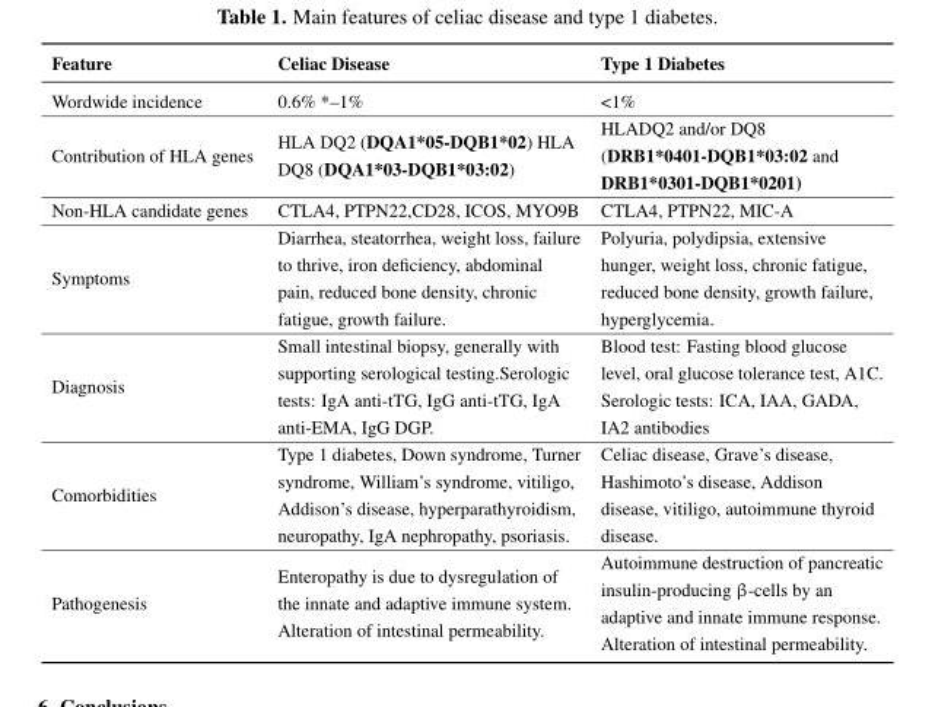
<table><thead><tr><td>Feature</td><td>Celiac Disease</td><td>Type 1 Diabetes</td></tr></thead><tbody><tr><td>Wordwide incidence</td><td>0.6% *–1%</td><td>&lt;1%</td></tr><tr><td>Contribution of HLA genes</td><td>HLA DQ2 (DQA1*05-DQB1*02) HLA DQ8 (DQA1*03-DQB1*03:02)</td><td>HLADQ2 and/or DQ8 (DRB1*0401-DQB1*03:02 and DRB1*0301-DQB1*0201)</td></tr><tr><td>Non-HLA candidate genes</td><td>CTLA4, PTPN22,CD28, ICOS, MYO9B</td><td>CTLA4, PTPN22, MIC-A</td></tr><tr><td>Symptoms</td><td>Diarrhea, steatorrhea, weight loss, failure to thrive, iron deficiency, abdominal pain, reduced bone density, chronic fatigue, growth failure.</td><td>Polyuria, polydipsia, extensive hunger, weight loss, chronic fatigue, reduced bone density, growth failure, hyperglycemia.</td></tr><tr><td>Diagnosis</td><td>Small intestinal biopsy, generally with supporting serological testing.Serologic tests: IgA anti-tTG, IgG anti-tTG, IgA anti-EMA, IgG DGP.</td><td>Blood test: Fasting blood glucose level, oral glucose tolerance test, A1C. Serologic tests: ICA, IAA, GADA, IA2 antibodies</td></tr><tr><td>Comorbidities</td><td>Type 1 diabetes, Down syndrome, Turner syndrome, William’s syndrome, vitiligo, Addison’s disease, hyperparathyroidism, neuropathy, IgA nephropathy, psoriasis.</td><td>Celiac disease, Grave’s disease, Hashimoto’s disease, Addison disease, vitiligo, autoimmune thyroid disease.</td></tr><tr><td>Pathogenesis</td><td>Enteropathy is due to dysregulation of the innate and adaptive immune system. Alteration of intestinal permeability.</td><td>Autoimmune destruction of pancreatic insulin-producing β-cells by an adaptive and innate immune response. Alteration of intestinal permeability.</td></tr></tbody></table>